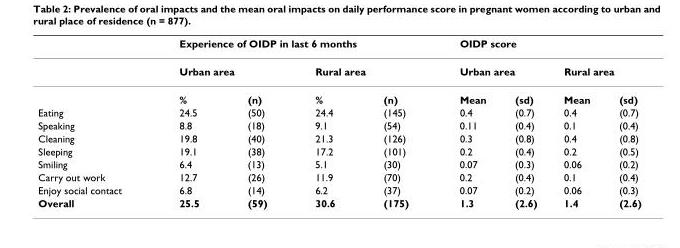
<table><thead><tr><td rowspan="3"></td><td colspan="4">Experience of OIDP in last 6 months</td><td colspan="4">OIDP score</td></tr><tr><td colspan="2">Urban area</td><td colspan="2">Rural area</td><td colspan="2">Urban area</td><td colspan="2">Rural area</td></tr><tr><td>%</td><td>(n)</td><td>%</td><td>(n)</td><td>Mean</td><td>(sd)</td><td>Mean</td><td>(sd)</td></tr></thead><tbody><tr><td>Eating</td><td>24.5</td><td>(50)</td><td>24.4</td><td>(145)</td><td>0.4</td><td>(0.7)</td><td>0.4</td><td>(0.7)</td></tr><tr><td>Speaking</td><td>8.8</td><td>(18)</td><td>9.1</td><td>(54)</td><td>0.11</td><td>(0.4)</td><td>0.1</td><td>(0.4)</td></tr><tr><td>Cleaning</td><td>19.8</td><td>(40)</td><td>21.3</td><td>(126)</td><td>0.3</td><td>(0.8)</td><td>0.4</td><td>(0.8)</td></tr><tr><td>Sleeping</td><td>19.1</td><td>(38)</td><td>17.2</td><td>(101)</td><td>0.2</td><td>(0.4)</td><td>0.2</td><td>(0.5)</td></tr><tr><td>Smiling</td><td>6.4</td><td>(13)</td><td>5.1</td><td>(30)</td><td>0.07</td><td>(0.3)</td><td>0.06</td><td>(0.2)</td></tr><tr><td>Carry out work</td><td>12.7</td><td>(26)</td><td>11.9</td><td>(70)</td><td>0.2</td><td>(0.4)</td><td>0.1</td><td>(0.4)</td></tr><tr><td>Enjoy social contact</td><td>6.8</td><td>(14)</td><td>6.2</td><td>(37)</td><td>0.07</td><td>(0.2)</td><td>0.06</td><td>(0.3)</td></tr><tr><td>Overall</td><td>25.5</td><td>(59)</td><td>30.6</td><td>(175)</td><td>1.3</td><td>(2.6)</td><td>1.4</td><td>(2.6)</td></tr></tbody></table>